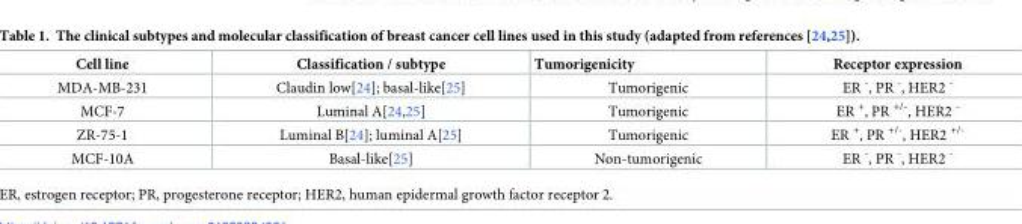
<table><thead><tr><td>Cell line</td><td>Classification / subtype</td><td>Tumorigenicity</td><td>Receptor expression</td></tr></thead><tbody><tr><td>MDA-MB-231</td><td>Claudin low[24]; basal-like[25]</td><td>Tumorigenic</td><td>ER <sup>-</sup>, PR <sup>-</sup>, HER2 <sup>-</sup></td></tr><tr><td>MCF-7</td><td>Luminal A[24,25]</td><td>Tumorigenic</td><td>ER <sup>+</sup>, PR <sup>+/-</sup>, HER2 <sup>-</sup></td></tr><tr><td>ZR-75-1</td><td>Luminal B[24]; luminal A[25]</td><td>Tumorigenic</td><td>ER <sup>+</sup>, PR <sup>+/-</sup>, HER2 <sup>+/-</sup></td></tr><tr><td>MCF-10A</td><td>Basal-like[25]</td><td>Non-tumorigenic</td><td>ER <sup>-</sup>, PR <sup>-</sup>, HER2 <sup>-</sup></td></tr></tbody></table>